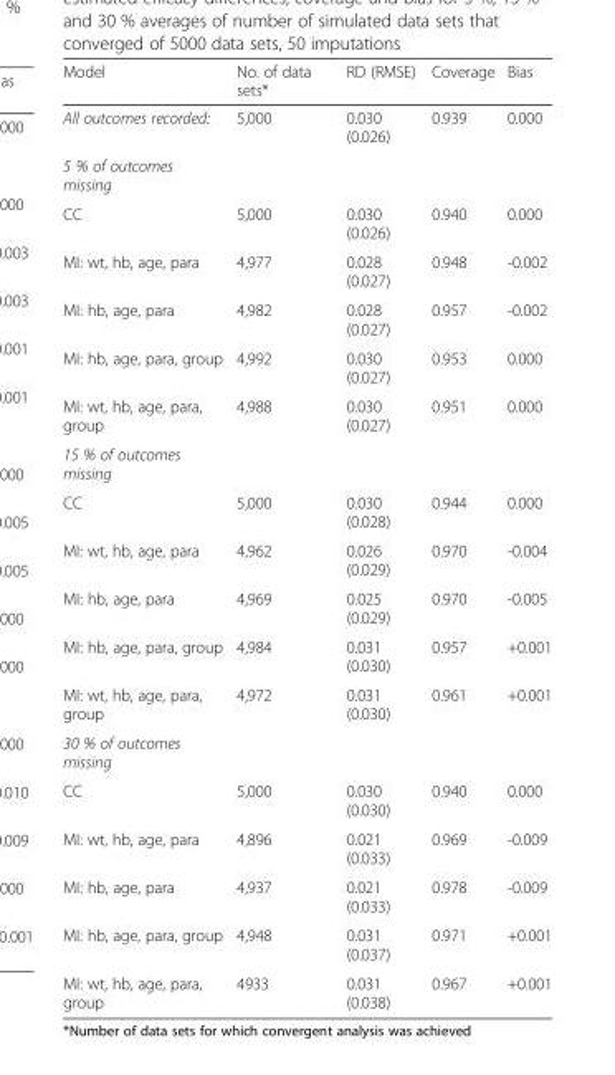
<table><thead><tr><td>Model</td><td>No. of data sets*</td><td>RD (RMSE)</td><td>Coverage</td><td>Bias</td></tr></thead><tbody><tr><td>All outcomes recorded:</td><td>5,000</td><td>0.030 (0.026)</td><td>0.939</td><td>0.000</td></tr><tr><td colspan="5">5 % of outcomes missing</td></tr><tr><td>CC</td><td>5,000</td><td>0.030 (0.026)</td><td>0.940</td><td>0.000</td></tr><tr><td>MI: wt, hb, age, para</td><td>4,977</td><td>0.028 (0.027)</td><td>0.948</td><td>-0.002</td></tr><tr><td>MI: hb, age, para</td><td>4,982</td><td>0.028 (0.027)</td><td>0.957</td><td>-0.002</td></tr><tr><td>MI: hb, age, para, group</td><td>4,992</td><td>0.030 (0.027)</td><td>0.953</td><td>0.000</td></tr><tr><td>MI: wt, hb, age, para, group</td><td>4,988</td><td>0.030 (0.027)</td><td>0.951</td><td>0.000</td></tr><tr><td colspan="5">15 % of outcomes missing</td></tr><tr><td>CC</td><td>5,000</td><td>0.030 (0.028)</td><td>0.944</td><td>0.000</td></tr><tr><td>MI: wt, hb, age, para</td><td>4,962</td><td>0.026 (0.029)</td><td>0.970</td><td>-0.004</td></tr><tr><td>MI: hb, age, para</td><td>4,969</td><td>0.025 (0.029)</td><td>0.970</td><td>-0.005</td></tr><tr><td>MI: hb, age, para, group</td><td>4,984</td><td>0.031 (0.030)</td><td>0.957</td><td>+0.001</td></tr><tr><td>MI: wt, hb, age, para, group</td><td>4,972</td><td>0.031 (0.030)</td><td>0.961</td><td>+0.001</td></tr><tr><td colspan="5">30 % of outcomes missing</td></tr><tr><td>CC</td><td>5,000</td><td>0.030 (0.030)</td><td>0.940</td><td>0.000</td></tr><tr><td>MI: wt, hb, age, para</td><td>4,896</td><td>0.021 (0.033)</td><td>0.969</td><td>-0.009</td></tr><tr><td>MI: hb, age, para</td><td>4,937</td><td>0.021 (0.033)</td><td>0.978</td><td>-0.009</td></tr><tr><td>MI: hb, age, para, group</td><td>4,948</td><td>0.031 (0.037)</td><td>0.971</td><td>+0.001</td></tr><tr><td>MI: wt, hb, age, para, group</td><td>4933</td><td>0.031 (0.038)</td><td>0.967</td><td>+0.001</td></tr></tbody></table>